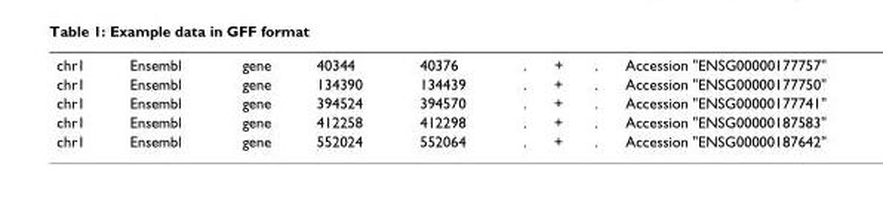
<table><tbody><tr><td>chr1</td><td>Ensembl</td><td>gene</td><td>40344</td><td>40376</td><td>.</td><td>+</td><td>.</td><td>Accession &quot;ENSG00000177757&quot;</td></tr><tr><td>chr1</td><td>Ensembl</td><td>gene</td><td>134390</td><td>134439</td><td>.</td><td>+</td><td>.</td><td>Accession &quot;ENSG00000177750&quot;</td></tr><tr><td>chr1</td><td>Ensembl</td><td>gene</td><td>394524</td><td>394570</td><td>.</td><td>+</td><td>.</td><td>Accession &quot;ENSG00000177741&quot;</td></tr><tr><td>chr1</td><td>Ensembl</td><td>gene</td><td>412258</td><td>412298</td><td>.</td><td>+</td><td>.</td><td>Accession &quot;ENSG00000187583&quot;</td></tr><tr><td>chr1</td><td>Ensembl</td><td>gene</td><td>552024</td><td>552064</td><td>.</td><td>+</td><td>.</td><td>Accession &quot;ENSG00000187642&quot;</td></tr></tbody></table>